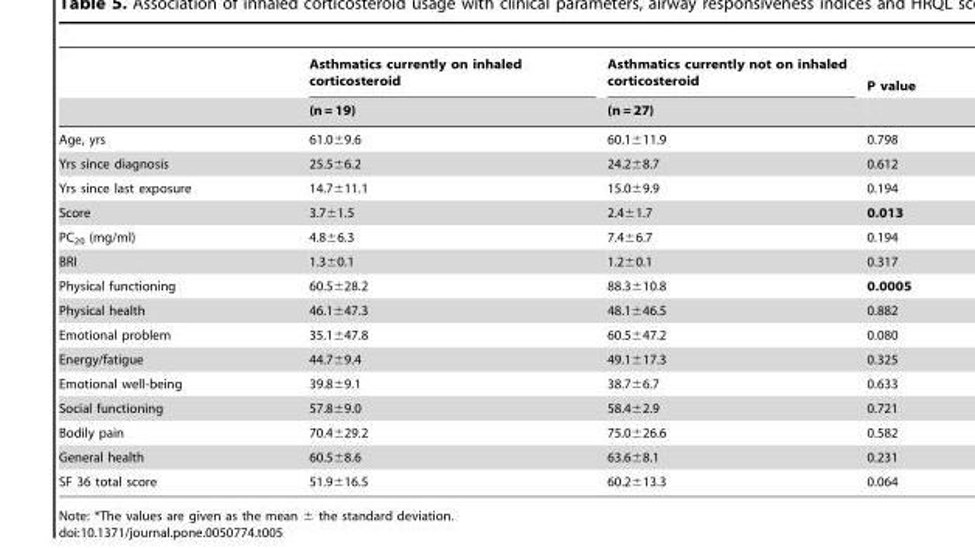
<table><thead><tr><td rowspan="2"></td><td rowspan="2">Asthmatics currently on inhaled corticosteroid (n = 19)</td><td rowspan="2">Asthmatics currently not on inhaled corticosteroid (n = 27)</td><td rowspan="2">P value</td></tr><tr></tr></thead><tbody><tr><td>Age, yrs</td><td>61.0±9.6</td><td>60.1±11.9</td><td>0.798</td></tr><tr><td>Yrs since diagnosis</td><td>25.5±6.2</td><td>24.2±8.7</td><td>0.612</td></tr><tr><td>Yrs since last exposure</td><td>14.7±11.1</td><td>15.0±9.9</td><td>0.194</td></tr><tr><td>Score</td><td>3.7±1.5</td><td>2.4±1.7</td><td>0.013</td></tr><tr><td>PC<sub>20</sub> (mg/ml)</td><td>4.8±6.3</td><td>7.4±6.7</td><td>0.194</td></tr><tr><td>BRI</td><td>1.3±0.1</td><td>1.2±0.1</td><td>0.317</td></tr><tr><td>Physical functioning</td><td>60.5±28.2</td><td>88.3±10.8</td><td>0.0005</td></tr><tr><td>Physical health</td><td>46.1±47.3</td><td>48.1±46.5</td><td>0.882</td></tr><tr><td>Emotional problem</td><td>35.1±47.8</td><td>60.5±47.2</td><td>0.080</td></tr><tr><td>Energy/fatigue</td><td>44.7±9.4</td><td>49.1±17.3</td><td>0.325</td></tr><tr><td>Emotional well-being</td><td>39.8±9.1</td><td>38.7±6.7</td><td>0.633</td></tr><tr><td>Social functioning</td><td>57.8±9.0</td><td>58.4±2.9</td><td>0.721</td></tr><tr><td>Bodily pain</td><td>70.4±29.2</td><td>75.0±26.6</td><td>0.582</td></tr><tr><td>General health</td><td>60.5±8.6</td><td>63.6±8.1</td><td>0.231</td></tr><tr><td>SF 36 total score</td><td>51.9±16.5</td><td>60.2±13.3</td><td>0.064</td></tr></tbody></table>